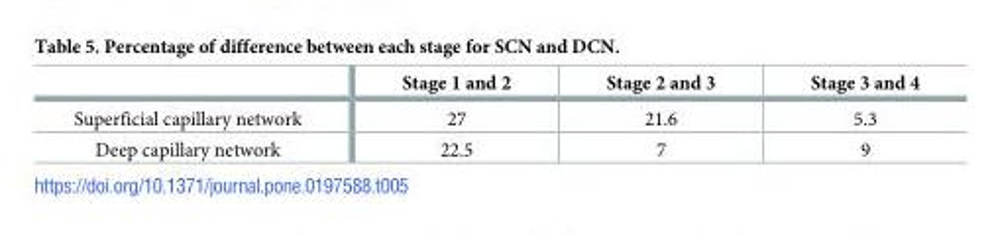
<table><thead><tr><td></td><td>Stage 1 and 2</td><td>Stage 2 and 3</td><td>Stage 3 and 4</td></tr></thead><tbody><tr><td>Superficial capillary network</td><td>27</td><td>21.6</td><td>5.3</td></tr><tr><td>Deep capillary network</td><td>22.5</td><td>7</td><td>9</td></tr></tbody></table>